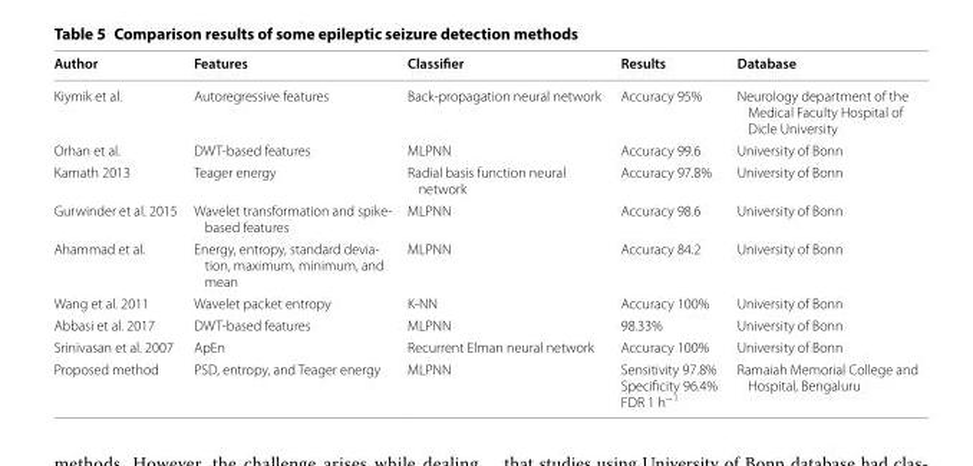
<table><thead><tr><td>Author</td><td>Features</td><td>Classifier</td><td>Results</td><td>Database</td></tr></thead><tbody><tr><td>Kiymik et al.</td><td>Autoregressive features</td><td>Back-propagation neural network</td><td>Accuracy 95%</td><td>Neurology department of the Medical Faculty Hospital of Dicle University</td></tr><tr><td>Orhan et al.</td><td>DWT-based features</td><td>MLPNN</td><td>Accuracy 99.6</td><td>University of Bonn</td></tr><tr><td>Kamath 2013</td><td>Teager energy</td><td>Radial basis function neural network</td><td>Accuracy 97.8%</td><td>University of Bonn</td></tr><tr><td>Gurwinder et al. 2015</td><td>Wavelet transformation and spike- based features</td><td>MLPNN</td><td>Accuracy 98.6</td><td>University of Bonn</td></tr><tr><td>Ahammad et al.</td><td>Energy, entropy, standard devia- tion, maximum, minimum, and mean</td><td>MLPNN</td><td>Accuracy 84.2</td><td>University of Bonn</td></tr><tr><td>Wang et al. 2011</td><td>Wavelet packet entropy</td><td>K-NN</td><td>Accuracy 100%</td><td>University of Bonn</td></tr><tr><td>Abbasi et al. 2017</td><td>DWT-based features</td><td>MLPNN</td><td>98.33%</td><td>University of Bonn</td></tr><tr><td>Srinivasan et al. 2007</td><td>ApEn</td><td>Recurrent Elman neural network</td><td>Accuracy 100%</td><td>University of Bonn</td></tr><tr><td>Proposed method</td><td>PSD, entropy, and Teager energy</td><td>MLPNN</td><td>Sensitivity 97.8% Specificity 96.4% FDR 1 h<sup>−1</sup></td><td>Ramaiah Memorial College and Hospital, Bengaluru</td></tr></tbody></table>